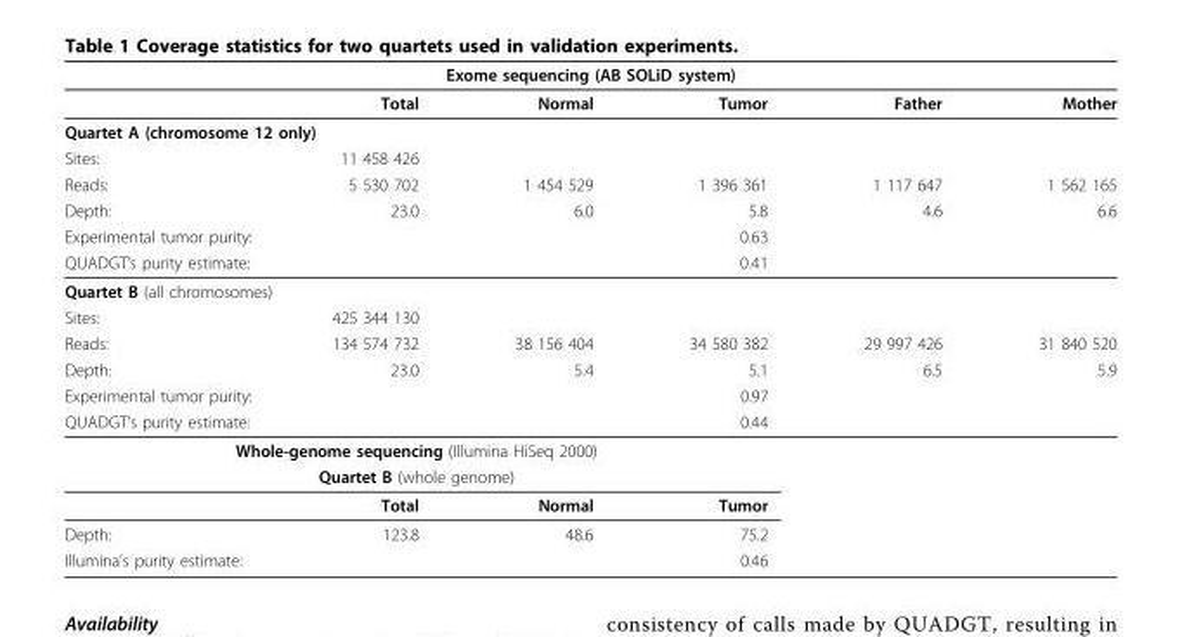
<table><thead><tr><td colspan="6">Exome sequencing (AB SOLiD system)</td></tr><tr><td></td><td>Total</td><td>Normal</td><td>Tumor</td><td>Father</td><td>Mother</td></tr></thead><tbody><tr><td colspan="6">Quartet A (chromosome 12 only)</td></tr><tr><td>Sites:</td><td>11 458 426</td><td></td><td></td><td></td><td></td></tr><tr><td>Reads:</td><td>5 530 702</td><td>1 454 529</td><td>1 396 361</td><td>1 117 647</td><td>1 562 165</td></tr><tr><td>Depth:</td><td>23.0</td><td>6.0</td><td>5.8</td><td>4.6</td><td>6.6</td></tr><tr><td colspan="2">Experimental tumor purity:</td><td></td><td>0.63</td><td></td><td></td></tr><tr><td colspan="2">QUADGT’s purity estimate:</td><td></td><td>0.41</td><td></td><td></td></tr><tr><td colspan="6">Quartet B (all chromosomes)</td></tr><tr><td>Sites:</td><td>425 344 130</td><td></td><td></td><td></td><td></td></tr><tr><td>Reads:</td><td>134 574 732</td><td>38 156 404</td><td>34 580 382</td><td>29 997 426</td><td>31 840 520</td></tr><tr><td>Depth:</td><td>23.0</td><td>5.4</td><td>5.1</td><td>6.5</td><td>5.9</td></tr><tr><td colspan="2">Experimental tumor purity:</td><td></td><td>0.97</td><td></td><td></td></tr><tr><td colspan="2">QUADGT’s purity estimate:</td><td></td><td>0.44</td><td></td><td></td></tr><tr><td colspan="6">Whole-genome sequencing (Illumina HiSeq 2000)</td></tr><tr><td colspan="6">Quartet B (whole genome)</td></tr><tr><td></td><td>Total</td><td>Normal</td><td>Tumor</td><td></td><td></td></tr><tr><td>Depth:</td><td>123.8</td><td>48.6</td><td>75.2</td><td></td><td></td></tr><tr><td colspan="3">Illumina’s purity estimate:</td><td>0.46</td><td></td><td></td></tr></tbody></table>